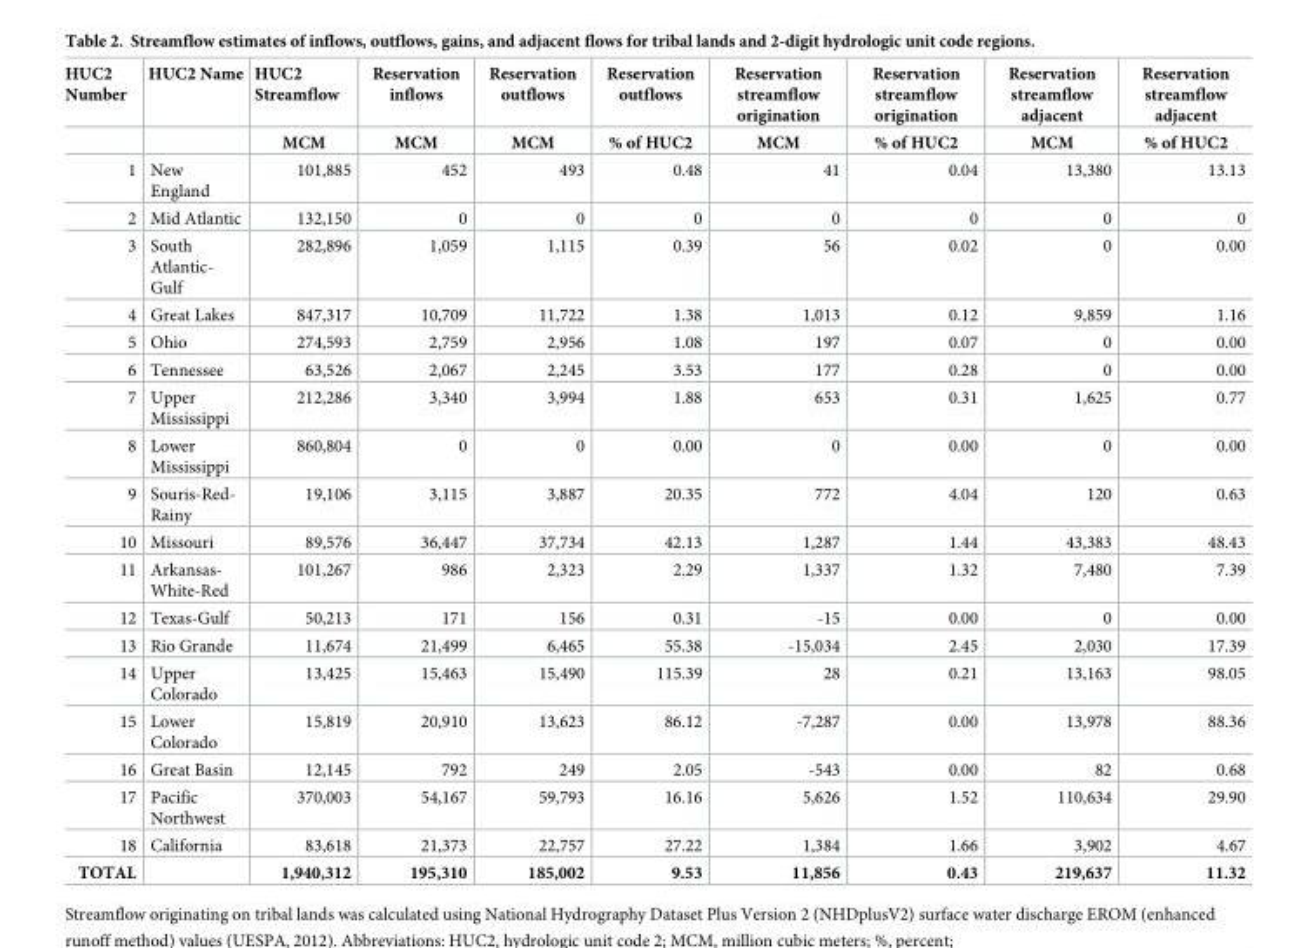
<table><thead><tr><td rowspan="2">HUC2 Number</td><td rowspan="2">HUC2 Name</td><td rowspan="2">HUC2 Streamflow MCM</td><td rowspan="2">Reservation inflows MCM</td><td rowspan="2">Reservation outflows MCM</td><td rowspan="2">Reservation outflows % of HUC2</td><td rowspan="2">Reservation streamflow origination MCM</td><td rowspan="2">Reservation streamflow origination % of HUC2</td><td rowspan="2">Reservation streamflow adjacent MCM</td><td rowspan="2">Reservation streamflow adjacent % of HUC2</td></tr><tr></tr></thead><tbody><tr><td>1</td><td>New England</td><td>101,885</td><td>452</td><td>493</td><td>0.48</td><td>41</td><td>0.04</td><td>13,380</td><td>13.13</td></tr><tr><td>2</td><td>Mid Atlantic</td><td>132,150</td><td>0</td><td>0</td><td>0</td><td>0</td><td>0</td><td>0</td><td>0</td></tr><tr><td>3</td><td>South Atlantic- Gulf</td><td>282,896</td><td>1,059</td><td>1,115</td><td>0.39</td><td>56</td><td>0.02</td><td>0</td><td>0.00</td></tr><tr><td>4</td><td>Great Lakes</td><td>847,317</td><td>10,709</td><td>11,722</td><td>1.38</td><td>1,013</td><td>0.12</td><td>9,859</td><td>1.16</td></tr><tr><td>5</td><td>Ohio</td><td>274,593</td><td>2,759</td><td>2,956</td><td>1.08</td><td>197</td><td>0.07</td><td>0</td><td>0.00</td></tr><tr><td>6</td><td>Tennessee</td><td>63,526</td><td>2,067</td><td>2,245</td><td>3.53</td><td>177</td><td>0.28</td><td>0</td><td>0.00</td></tr><tr><td>7</td><td>Upper Mississippi</td><td>212,286</td><td>3,340</td><td>3,994</td><td>1.88</td><td>653</td><td>0.31</td><td>1,625</td><td>0.77</td></tr><tr><td>8</td><td>Lower Mississippi</td><td>860,804</td><td>0</td><td>0</td><td>0.00</td><td>0</td><td>0.00</td><td>0</td><td>0.00</td></tr><tr><td>9</td><td>Souris-Red- Rainy</td><td>19,106</td><td>3,115</td><td>3,887</td><td>20.35</td><td>772</td><td>4.04</td><td>120</td><td>0.63</td></tr><tr><td>10</td><td>Missouri</td><td>89,576</td><td>36,447</td><td>37,734</td><td>42.13</td><td>1,287</td><td>1.44</td><td>43,383</td><td>48.43</td></tr><tr><td>11</td><td>Arkansas- White-Red</td><td>101,267</td><td>986</td><td>2,323</td><td>2.29</td><td>1,337</td><td>1.32</td><td>7,480</td><td>7.39</td></tr><tr><td>12</td><td>Texas-Gulf</td><td>50,213</td><td>171</td><td>156</td><td>0.31</td><td>-15</td><td>0.00</td><td>0</td><td>0.00</td></tr><tr><td>13</td><td>Rio Grande</td><td>11,674</td><td>21,499</td><td>6,465</td><td>55.38</td><td>-15,034</td><td>2.45</td><td>2,030</td><td>17.39</td></tr><tr><td>14</td><td>Upper Colorado</td><td>13,425</td><td>15,463</td><td>15,490</td><td>115.39</td><td>28</td><td>0.21</td><td>13,163</td><td>98.05</td></tr><tr><td>15</td><td>Lower Colorado</td><td>15,819</td><td>20,910</td><td>13,623</td><td>86.12</td><td>-7,287</td><td>0.00</td><td>13,978</td><td>88.36</td></tr><tr><td>16</td><td>Great Basin</td><td>12,145</td><td>792</td><td>249</td><td>2.05</td><td>-543</td><td>0.00</td><td>82</td><td>0.68</td></tr><tr><td>17</td><td>Pacific Northwest</td><td>370,003</td><td>54,167</td><td>59,793</td><td>16.16</td><td>5,626</td><td>1.52</td><td>110,634</td><td>29.90</td></tr><tr><td>18</td><td>California</td><td>83,618</td><td>21,373</td><td>22,757</td><td>27.22</td><td>1,384</td><td>1.66</td><td>3,902</td><td>4.67</td></tr><tr><td>TOTAL</td><td></td><td>1,940,312</td><td>195,310</td><td>185,002</td><td>9.53</td><td>11,856</td><td>0.43</td><td>219,637</td><td>11.32</td></tr></tbody></table>